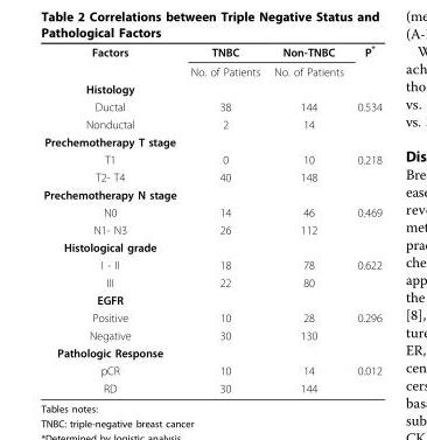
<table><tbody><tr><td rowspan="2">Factors</td><td>TNBC</td><td>Non-TNBC</td><td>P*</td></tr><tr><td>No. of Patients</td><td>No. of Patients</td><td></td></tr><tr><td colspan="4">Histology</td></tr><tr><td>Ductal</td><td>38</td><td>144</td><td>0.534</td></tr><tr><td>Nonductal</td><td>2</td><td>14</td><td></td></tr><tr><td colspan="4">Prechemotherapy T stage</td></tr><tr><td>T1</td><td>0</td><td>10</td><td>0.218</td></tr><tr><td>T2- T4</td><td>40</td><td>148</td><td></td></tr><tr><td colspan="4">Prechemotherapy N stage</td></tr><tr><td>N0</td><td>14</td><td>46</td><td>0.469</td></tr><tr><td>N1- N3</td><td>26</td><td>112</td><td></td></tr><tr><td colspan="4">Histological grade</td></tr><tr><td>I - II</td><td>18</td><td>78</td><td>0.622</td></tr><tr><td>III</td><td>22</td><td>80</td><td></td></tr><tr><td colspan="4">EGFR</td></tr><tr><td>Positive</td><td>10</td><td>28</td><td>0.296</td></tr><tr><td>Negative</td><td>30</td><td>130</td><td></td></tr><tr><td colspan="4">Pathologic Response</td></tr><tr><td>pCR</td><td>10</td><td>14</td><td>0.012</td></tr><tr><td>RD</td><td>30</td><td>144</td><td></td></tr></tbody></table>